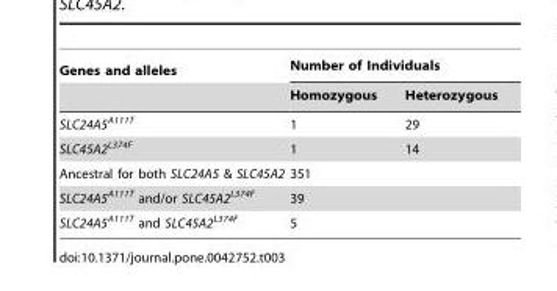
<table><thead><tr><td rowspan="2">Genes and alleles</td><td colspan="2">Number of Individuals</td></tr><tr><td>Homozygous</td><td>Heterozygous</td></tr></thead><tbody><tr><td>SLC24A5<sup>A111T</sup></td><td>1</td><td>29</td></tr><tr><td>SLC45A2<sup>L374F</sup></td><td>1</td><td>14</td></tr><tr><td>Ancestral for both SLC24A5 &amp; SLC45A2</td><td>351</td><td></td></tr><tr><td>SLC24A5<sup>A111T</sup> and/or SLC45A2<sup>L374F</sup></td><td colspan="2">39</td></tr><tr><td>SLC24A5<sup>A111T</sup> and SLC45A2<sup>L374F</sup></td><td colspan="2">5</td></tr></tbody></table>